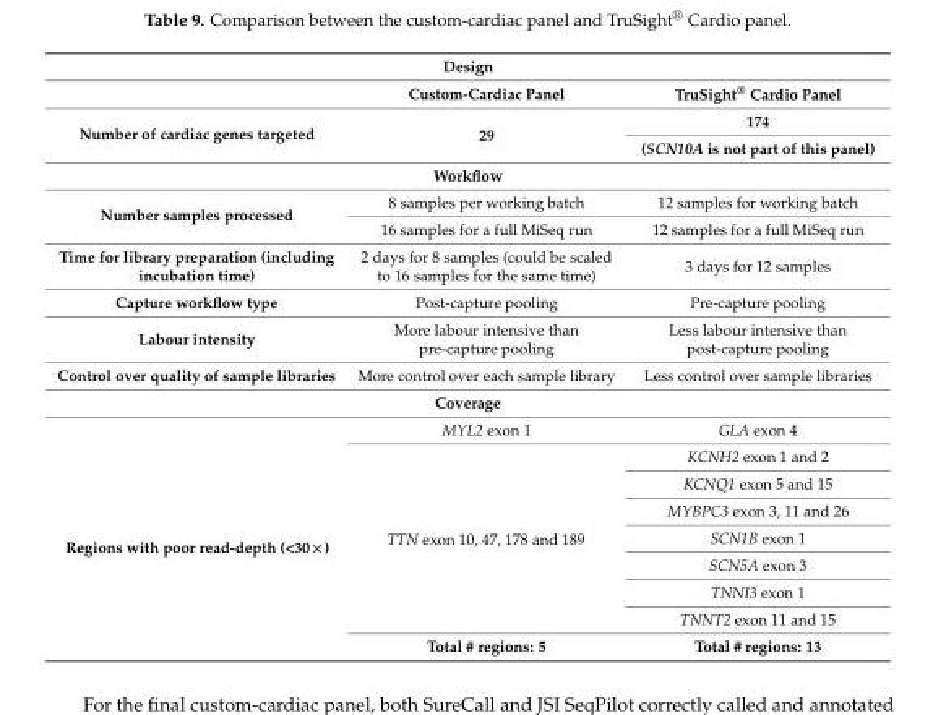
<table><thead><tr><td colspan="3">Design</td></tr><tr><td rowspan="3">Number of cardiac genes targeted</td><td rowspan="3">Custom-Cardiac Panel 29</td><td rowspan="3">TruSight<sup>®</sup> Cardio Panel 174 (SCN10A is not part of this panel)</td></tr><tr></tr><tr></tr></thead><tbody><tr><td colspan="3">Workflow</td></tr><tr><td rowspan="2">Number samples processed</td><td>8 samples per working batch</td><td>12 samples for working batch</td></tr><tr><td>16 samples for a full MiSeq run</td><td>12 samples for a full MiSeq run</td></tr><tr><td>Time for library preparation (including incubation time)</td><td>2 days for 8 samples (could be scaled to 16 samples for the same time)</td><td>3 days for 12 samples</td></tr><tr><td>Capture workflow type</td><td>Post-capture pooling</td><td>Pre-capture pooling</td></tr><tr><td>Labour intensity</td><td>More labour intensive than pre-capture pooling</td><td>Less labour intensive than post-capture pooling</td></tr><tr><td>Control over quality of sample libraries</td><td>More control over each sample library</td><td>Less control over sample libraries</td></tr><tr><td colspan="3">Coverage</td></tr><tr><td rowspan="9">Regions with poor read-depth (&lt;30×)</td><td>MYL2 exon 1</td><td>GLA exon 4</td></tr><tr><td rowspan="7">TTN exon 10, 47, 178 and 189</td><td>KCNH2 exon 1 and 2</td></tr><tr><td>KCNQ1 exon 5 and 15</td></tr><tr><td>MYBPC3 exon 3, 11 and 26</td></tr><tr><td>SCN1B exon 1</td></tr><tr><td>SCN5A exon 3</td></tr><tr><td>TNNI3 exon 1</td></tr><tr><td>TNNT2 exon 11 and 15</td></tr><tr><td>Total # regions: 5</td><td>Total # regions: 13</td></tr></tbody></table>